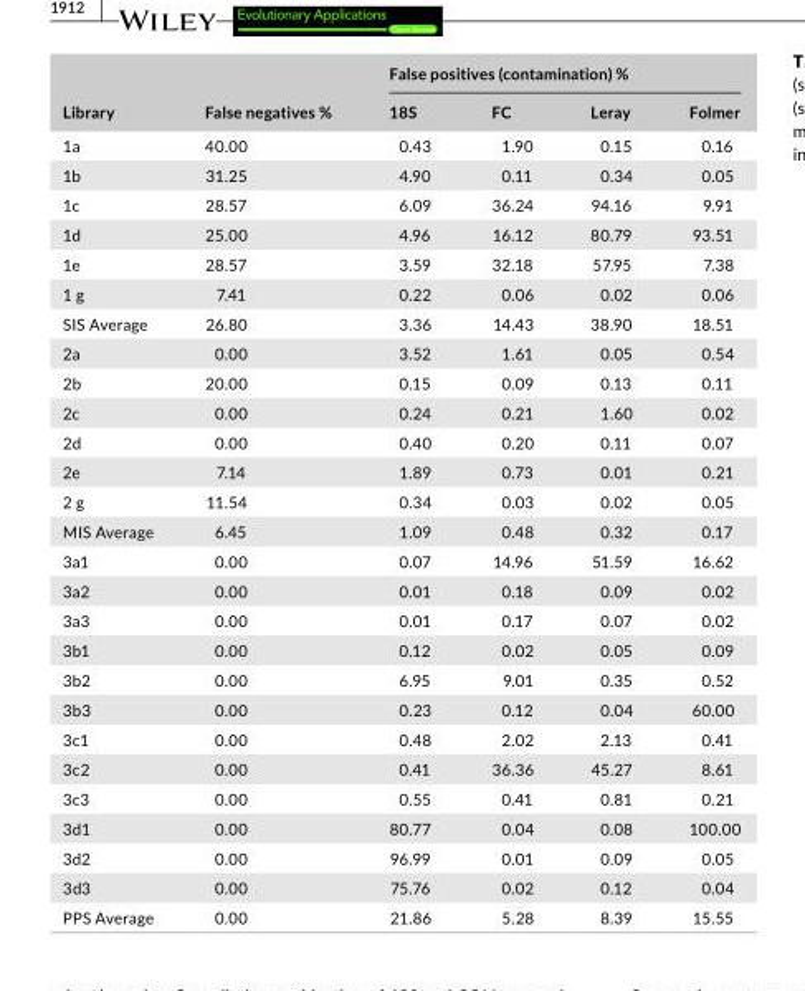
<table><thead><tr><td rowspan="2">Library</td><td rowspan="2">False negatives %</td><td colspan="4">False positives (contamination) %</td></tr><tr><td>18S</td><td>FC</td><td>Leray</td><td>Folmer</td></tr></thead><tbody><tr><td>1a</td><td>40.00</td><td>0.43</td><td>1.90</td><td>0.15</td><td>0.16</td></tr><tr><td>1b</td><td>31.25</td><td>4.90</td><td>0.11</td><td>0.34</td><td>0.05</td></tr><tr><td>1c</td><td>28.57</td><td>6.09</td><td>36.24</td><td>94.16</td><td>9.91</td></tr><tr><td>1d</td><td>25.00</td><td>4.96</td><td>16.12</td><td>80.79</td><td>93.51</td></tr><tr><td>1e</td><td>28.57</td><td>3.59</td><td>32.18</td><td>57.95</td><td>7.38</td></tr><tr><td>1 g</td><td>7.41</td><td>0.22</td><td>0.06</td><td>0.02</td><td>0.06</td></tr><tr><td>SIS Average</td><td>26.80</td><td>3.36</td><td>14.43</td><td>38.90</td><td>18.51</td></tr><tr><td>2a</td><td>0.00</td><td>3.52</td><td>1.61</td><td>0.05</td><td>0.54</td></tr><tr><td>2b</td><td>20.00</td><td>0.15</td><td>0.09</td><td>0.13</td><td>0.11</td></tr><tr><td>2c</td><td>0.00</td><td>0.24</td><td>0.21</td><td>1.60</td><td>0.02</td></tr><tr><td>2d</td><td>0.00</td><td>0.40</td><td>0.20</td><td>0.11</td><td>0.07</td></tr><tr><td>2e</td><td>7.14</td><td>1.89</td><td>0.73</td><td>0.01</td><td>0.21</td></tr><tr><td>2 g</td><td>11.54</td><td>0.34</td><td>0.03</td><td>0.02</td><td>0.05</td></tr><tr><td>MIS Average</td><td>6.45</td><td>1.09</td><td>0.48</td><td>0.32</td><td>0.17</td></tr><tr><td>3a1</td><td>0.00</td><td>0.07</td><td>14.96</td><td>51.59</td><td>16.62</td></tr><tr><td>3a2</td><td>0.00</td><td>0.01</td><td>0.18</td><td>0.09</td><td>0.02</td></tr><tr><td>3a3</td><td>0.00</td><td>0.01</td><td>0.17</td><td>0.07</td><td>0.02</td></tr><tr><td>3b1</td><td>0.00</td><td>0.12</td><td>0.02</td><td>0.05</td><td>0.09</td></tr><tr><td>3b2</td><td>0.00</td><td>6.95</td><td>9.01</td><td>0.35</td><td>0.52</td></tr><tr><td>3b3</td><td>0.00</td><td>0.23</td><td>0.12</td><td>0.04</td><td>60.00</td></tr><tr><td>3c1</td><td>0.00</td><td>0.48</td><td>2.02</td><td>2.13</td><td>0.41</td></tr><tr><td>3c2</td><td>0.00</td><td>0.41</td><td>36.36</td><td>45.27</td><td>8.61</td></tr><tr><td>3c3</td><td>0.00</td><td>0.55</td><td>0.41</td><td>0.81</td><td>0.21</td></tr><tr><td>3d1</td><td>0.00</td><td>80.77</td><td>0.04</td><td>0.08</td><td>100.00</td></tr><tr><td>3d2</td><td>0.00</td><td>96.99</td><td>0.01</td><td>0.09</td><td>0.05</td></tr><tr><td>3d3</td><td>0.00</td><td>75.76</td><td>0.02</td><td>0.12</td><td>0.04</td></tr><tr><td>PPS Average</td><td>0.00</td><td>21.86</td><td>5.28</td><td>8.39</td><td>15.55</td></tr></tbody></table>